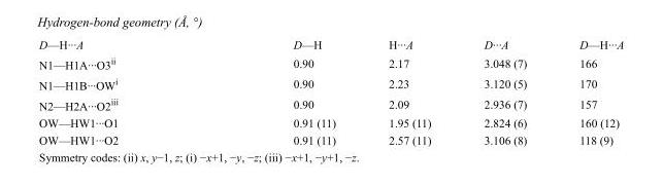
<table><tbody><tr><td>D—H···A</td><td>D—H</td><td>H···A</td><td>D···A</td><td>D—H···A</td></tr><tr><td>N1—H1A···O3<sup>ii</sup></td><td>0.90</td><td>2.17</td><td>3.048 (7)</td><td>166</td></tr><tr><td>N1—H1B···OW<sup>i</sup></td><td>0.90</td><td>2.23</td><td>3.120 (5)</td><td>170</td></tr><tr><td>N2—H2A···O2<sup>iii</sup></td><td>0.90</td><td>2.09</td><td>2.936 (7)</td><td>157</td></tr><tr><td>OW—HW1···O1</td><td>0.91 (11)</td><td>1.95 (11)</td><td>2.824 (6)</td><td>160 (12)</td></tr><tr><td>OW—HW1···O2</td><td>0.91 (11)</td><td>2.57 (11)</td><td>3.106 (8)</td><td>118 (9)</td></tr></tbody></table>